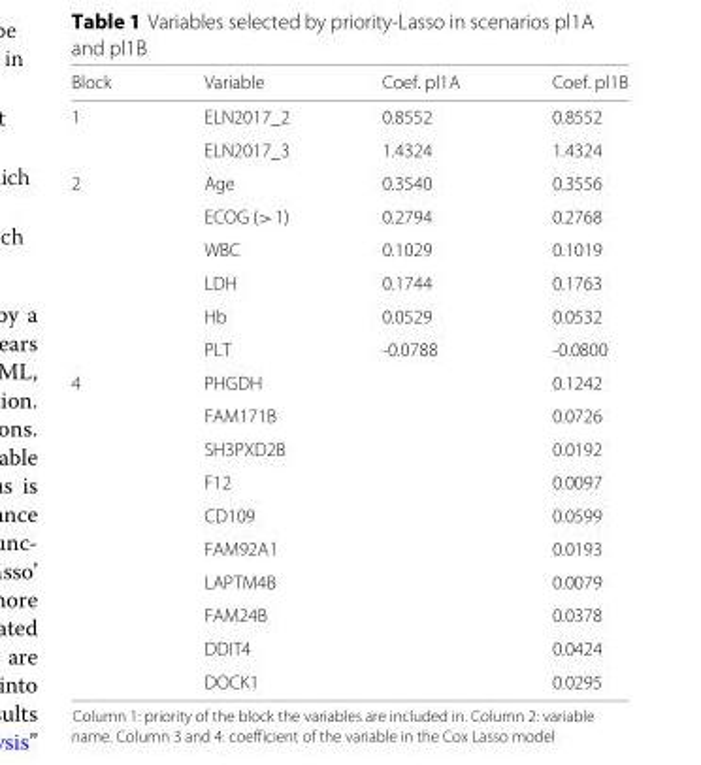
<table><thead><tr><td>Block</td><td>Variable</td><td>Coef. pl1A</td><td>Coef. pl1B</td></tr></thead><tbody><tr><td rowspan="2">1</td><td>ELN2017_2</td><td>0.8552</td><td>0.8552</td></tr><tr><td>ELN2017_3</td><td>1.4324</td><td>1.4324</td></tr><tr><td rowspan="6">2</td><td>Age</td><td>0.3540</td><td>0.3556</td></tr><tr><td>ECOG (&gt;1)</td><td>0.2794</td><td>0.2768</td></tr><tr><td>WBC</td><td>0.1029</td><td>0.1019</td></tr><tr><td>LDH</td><td>0.1744</td><td>0.1763</td></tr><tr><td>Hb</td><td>0.0529</td><td>0.0532</td></tr><tr><td>PLT</td><td>-0.0788</td><td>-0.0800</td></tr><tr><td rowspan="10">4</td><td>PHGDH</td><td></td><td>0.1242</td></tr><tr><td>FAM171B</td><td></td><td>0.0726</td></tr><tr><td>SH3PXD2B</td><td></td><td>0.0192</td></tr><tr><td>F12</td><td></td><td>0.0097</td></tr><tr><td>CD109</td><td></td><td>0.0599</td></tr><tr><td>FAM92A1</td><td></td><td>0.0193</td></tr><tr><td>LAPTM4B</td><td></td><td>0.0079</td></tr><tr><td>FAM24B</td><td></td><td>0.0378</td></tr><tr><td>DDIT4</td><td></td><td>0.0424</td></tr><tr><td>DOCK1</td><td></td><td>0.0295</td></tr></tbody></table>